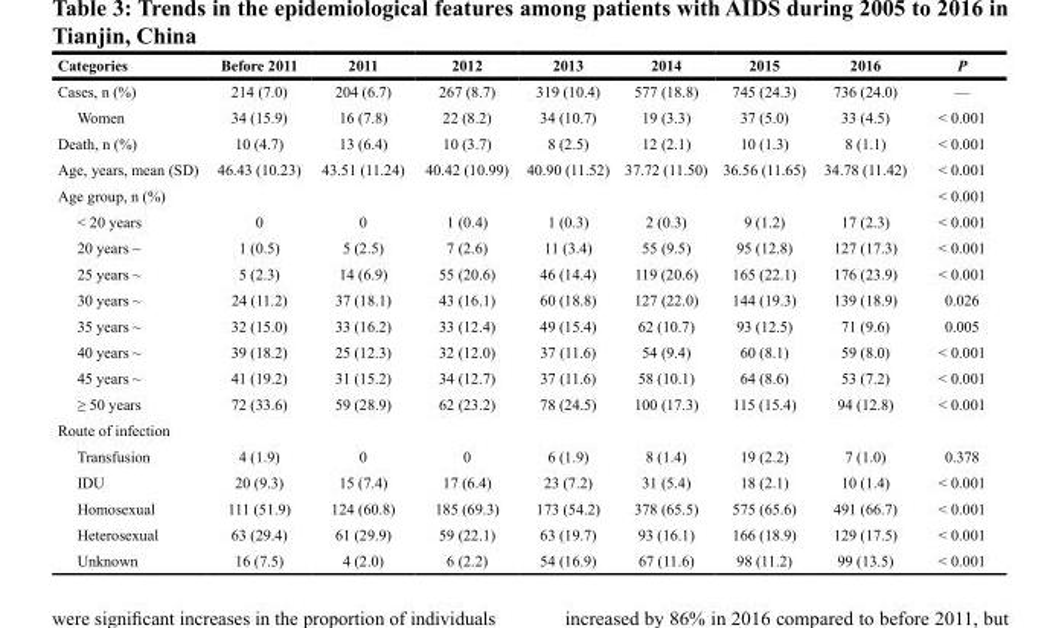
<table><thead><tr><td>Categories</td><td>Before 2011</td><td>2011</td><td>2012</td><td>2013</td><td>2014</td><td>2015</td><td>2016</td><td>P</td></tr></thead><tbody><tr><td>Cases, n (%)</td><td>214 (7.0)</td><td>204 (6.7)</td><td>267 (8.7)</td><td>319 (10.4)</td><td>577 (18.8)</td><td>745 (24.3)</td><td>736 (24.0)</td><td>—</td></tr><tr><td>Women</td><td>34 (15.9)</td><td>16 (7.8)</td><td>22 (8.2)</td><td>34 (10.7)</td><td>19 (3.3)</td><td>37 (5.0)</td><td>33 (4.5)</td><td>&lt; 0.001</td></tr><tr><td>Death, n (%)</td><td>10 (4.7)</td><td>13 (6.4)</td><td>10 (3.7)</td><td>8 (2.5)</td><td>12 (2.1)</td><td>10 (1.3)</td><td>8 (1.1)</td><td>&lt; 0.001</td></tr><tr><td>Age, years, mean (SD)</td><td>46.43 (10.23)</td><td>43.51 (11.24)</td><td>40.42 (10.99)</td><td>40.90 (11.52)</td><td>37.72 (11.50)</td><td>36.56 (11.65)</td><td>34.78 (11.42)</td><td>&lt; 0.001</td></tr><tr><td>Age group, n (%)</td><td></td><td></td><td></td><td></td><td></td><td></td><td></td><td>&lt; 0.001</td></tr><tr><td>&lt; 20 years</td><td>0</td><td>0</td><td>1 (0.4)</td><td>1 (0.3)</td><td>2 (0.3)</td><td>9 (1.2)</td><td>17 (2.3)</td><td>&lt; 0.001</td></tr><tr><td>20 years ~</td><td>1 (0.5)</td><td>5 (2.5)</td><td>7 (2.6)</td><td>11 (3.4)</td><td>55 (9.5)</td><td>95 (12.8)</td><td>127 (17.3)</td><td>&lt; 0.001</td></tr><tr><td>25 years ~</td><td>5 (2.3)</td><td>14 (6.9)</td><td>55 (20.6)</td><td>46 (14.4)</td><td>119 (20.6)</td><td>165 (22.1)</td><td>176 (23.9)</td><td>&lt; 0.001</td></tr><tr><td>30 years ~</td><td>24 (11.2)</td><td>37 (18.1)</td><td>43 (16.1)</td><td>60 (18.8)</td><td>127 (22.0)</td><td>144 (19.3)</td><td>139 (18.9)</td><td>0.026</td></tr><tr><td>35 years ~</td><td>32 (15.0)</td><td>33 (16.2)</td><td>33 (12.4)</td><td>49 (15.4)</td><td>62 (10.7)</td><td>93 (12.5)</td><td>71 (9.6)</td><td>0.005</td></tr><tr><td>40 years ~</td><td>39 (18.2)</td><td>25 (12.3)</td><td>32 (12.0)</td><td>37 (11.6)</td><td>54 (9.4)</td><td>60 (8.1)</td><td>59 (8.0)</td><td>&lt; 0.001</td></tr><tr><td>45 years ~</td><td>41 (19.2)</td><td>31 (15.2)</td><td>34 (12.7)</td><td>37 (11.6)</td><td>58 (10.1)</td><td>64 (8.6)</td><td>53 (7.2)</td><td>&lt; 0.001</td></tr><tr><td>≥ 50 years</td><td>72 (33.6)</td><td>59 (28.9)</td><td>62 (23.2)</td><td>78 (24.5)</td><td>100 (17.3)</td><td>115 (15.4)</td><td>94 (12.8)</td><td>&lt; 0.001</td></tr><tr><td colspan="9">Route of infection</td></tr><tr><td>Transfusion</td><td>4 (1.9)</td><td>0</td><td>0</td><td>6 (1.9)</td><td>8 (1.4)</td><td>19 (2.2)</td><td>7 (1.0)</td><td>0.378</td></tr><tr><td>IDU</td><td>20 (9.3)</td><td>15 (7.4)</td><td>17 (6.4)</td><td>23 (7.2)</td><td>31 (5.4)</td><td>18 (2.1)</td><td>10 (1.4)</td><td>&lt; 0.001</td></tr><tr><td>Homosexual</td><td>111 (51.9)</td><td>124 (60.8)</td><td>185 (69.3)</td><td>173 (54.2)</td><td>378 (65.5)</td><td>575 (65.6)</td><td>491 (66.7)</td><td>&lt; 0.001</td></tr><tr><td>Heterosexual</td><td>63 (29.4)</td><td>61 (29.9)</td><td>59 (22.1)</td><td>63 (19.7)</td><td>93 (16.1)</td><td>166 (18.9)</td><td>129 (17.5)</td><td>&lt; 0.001</td></tr><tr><td>Unknown</td><td>16 (7.5)</td><td>4 (2.0)</td><td>6 (2.2)</td><td>54 (16.9)</td><td>67 (11.6)</td><td>98 (11.2)</td><td>99 (13.5)</td><td>&lt; 0.001</td></tr></tbody></table>